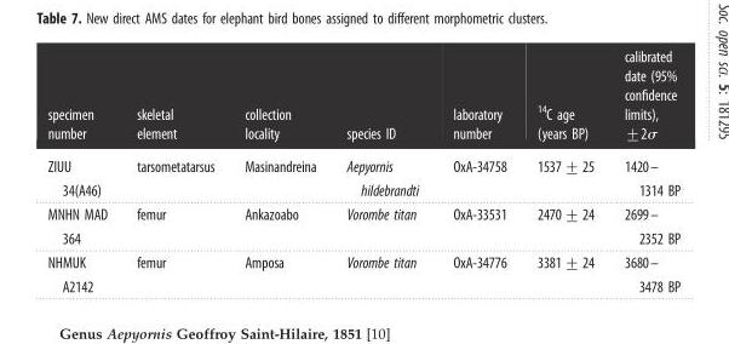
<table><thead><tr><td>specimen number</td><td>skeletal element</td><td>collection locality</td><td>species ID</td><td>laboratory number</td><td><sup>14</sup>C age (years BP)</td><td>calibrated date (95% confidence limits), +2s</td></tr></thead><tbody><tr><td>ZIUU 34(A46)</td><td>tarsometatarsus</td><td>Masinandreina</td><td>Aepyornis hildebrandti</td><td>OxA-34758</td><td>1537+ 25</td><td>1420– 1314 BP</td></tr><tr><td>MNHN MAD 364</td><td>femur</td><td>Ankazoabo</td><td>Vorombe titan</td><td>OxA-33531</td><td>2470+ 24</td><td>2699– 2352 BP</td></tr><tr><td>NHMUK A2142</td><td>femur</td><td>Amposa</td><td>Vorombe titan</td><td>OxA-34776</td><td>3381+ 24</td><td>3680– 3478 BP</td></tr></tbody></table>